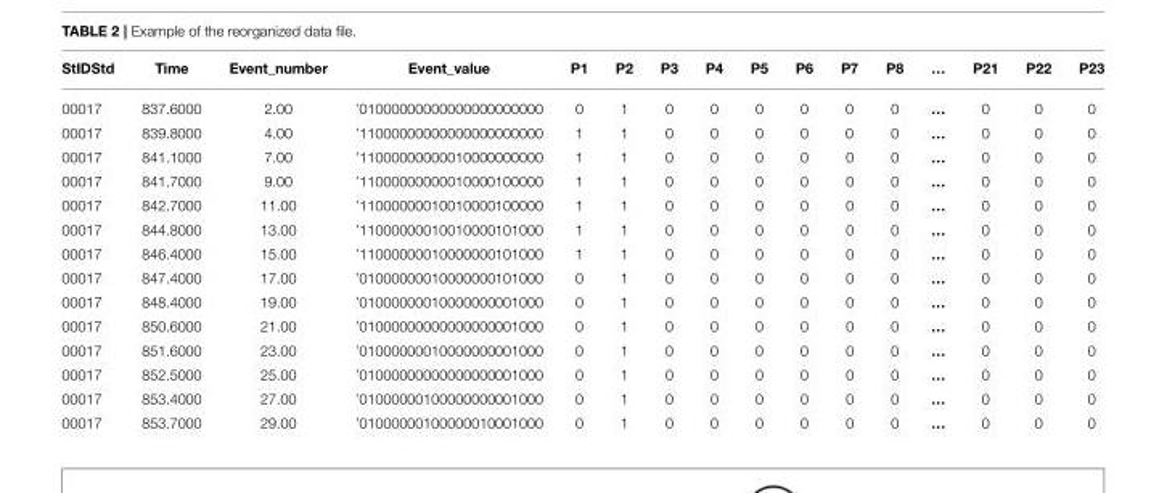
<table><thead><tr><td>StIDStd</td><td>Time</td><td>Event_number</td><td>Event_value</td><td>P1</td><td>P2</td><td>P3</td><td>P4</td><td>P5</td><td>P6</td><td>P7</td><td>P8</td><td>…</td><td>P21</td><td>P22</td><td>P23</td></tr></thead><tbody><tr><td>00017</td><td>837.6000</td><td>2.00</td><td>’01000000000000000000000</td><td>0</td><td>1</td><td>0</td><td>0</td><td>0</td><td>0</td><td>0</td><td>0</td><td>…</td><td>0</td><td>0</td><td>0</td></tr><tr><td>00017</td><td>839.8000</td><td>4.00</td><td>’11000000000000000000000</td><td>1</td><td>1</td><td>0</td><td>0</td><td>0</td><td>0</td><td>0</td><td>0</td><td>…</td><td>0</td><td>0</td><td>0</td></tr><tr><td>00017</td><td>841.1000</td><td>7.00</td><td>’11000000000010000000000</td><td>1</td><td>1</td><td>0</td><td>0</td><td>0</td><td>0</td><td>0</td><td>0</td><td>…</td><td>0</td><td>0</td><td>0</td></tr><tr><td>00017</td><td>841.7000</td><td>9.00</td><td>’11000000000010000100000</td><td>1</td><td>1</td><td>0</td><td>0</td><td>0</td><td>0</td><td>0</td><td>0</td><td>…</td><td>0</td><td>0</td><td>0</td></tr><tr><td>00017</td><td>842.7000</td><td>11.00</td><td>’11000000010010000100000</td><td>1</td><td>1</td><td>0</td><td>0</td><td>0</td><td>0</td><td>0</td><td>0</td><td>…</td><td>0</td><td>0</td><td>0</td></tr><tr><td>00017</td><td>844.8000</td><td>13.00</td><td>’11000000010010000101000</td><td>1</td><td>1</td><td>0</td><td>0</td><td>0</td><td>0</td><td>0</td><td>0</td><td>…</td><td>0</td><td>0</td><td>0</td></tr><tr><td>00017</td><td>846.4000</td><td>15.00</td><td>’11000000010000000101000</td><td>1</td><td>1</td><td>0</td><td>0</td><td>0</td><td>0</td><td>0</td><td>0</td><td>…</td><td>0</td><td>0</td><td>0</td></tr><tr><td>00017</td><td>847.4000</td><td>17.00</td><td>’01000000010000000101000</td><td>0</td><td>1</td><td>0</td><td>0</td><td>0</td><td>0</td><td>0</td><td>0</td><td>…</td><td>0</td><td>0</td><td>0</td></tr><tr><td>00017</td><td>848.4000</td><td>19.00</td><td>’01000000010000000001000</td><td>0</td><td>1</td><td>0</td><td>0</td><td>0</td><td>0</td><td>0</td><td>0</td><td>…</td><td>0</td><td>0</td><td>0</td></tr><tr><td>00017</td><td>850.6000</td><td>21.00</td><td>’01000000000000000001000</td><td>0</td><td>1</td><td>0</td><td>0</td><td>0</td><td>0</td><td>0</td><td>0</td><td>…</td><td>0</td><td>0</td><td>0</td></tr><tr><td>00017</td><td>851.6000</td><td>23.00</td><td>’01000000010000000001000</td><td>0</td><td>1</td><td>0</td><td>0</td><td>0</td><td>0</td><td>0</td><td>0</td><td>…</td><td>0</td><td>0</td><td>0</td></tr><tr><td>00017</td><td>852.5000</td><td>25.00</td><td>’01000000000000000001000</td><td>0</td><td>1</td><td>0</td><td>0</td><td>0</td><td>0</td><td>0</td><td>0</td><td>…</td><td>0</td><td>0</td><td>0</td></tr><tr><td>00017</td><td>853.4000</td><td>27.00</td><td>’01000000100000000001000</td><td>0</td><td>1</td><td>0</td><td>0</td><td>0</td><td>0</td><td>0</td><td>0</td><td>…</td><td>0</td><td>0</td><td>0</td></tr><tr><td>00017</td><td>853.7000</td><td>29.00</td><td>’01000000100000010001000</td><td>0</td><td>1</td><td>0</td><td>0</td><td>0</td><td>0</td><td>0</td><td>0</td><td>…</td><td>0</td><td>0</td><td>0</td></tr></tbody></table>